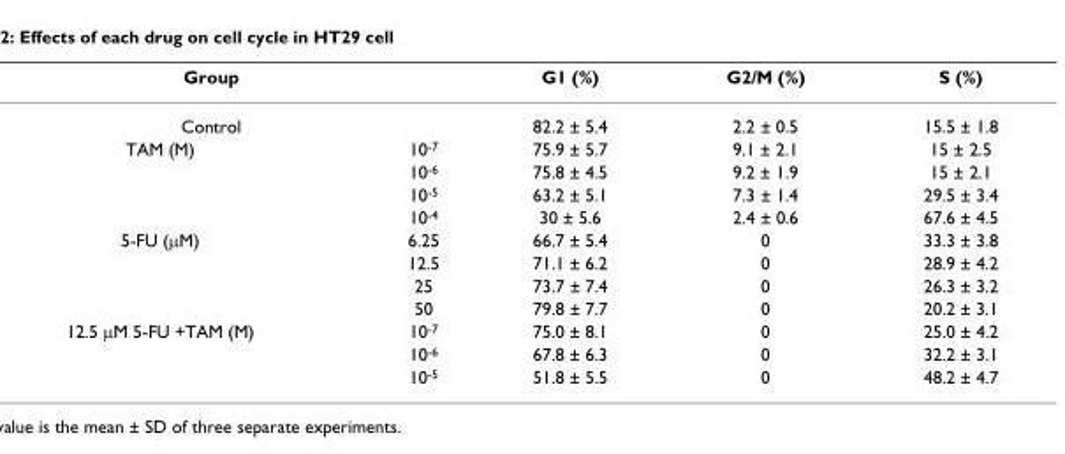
<table><thead><tr><td rowspan="2" colspan="2">Group Control</td><td rowspan="3">G1 (%) 82.2 ± 5.4 75.9 ± 5.7</td><td rowspan="3">G2/M (%) 2.2 ± 0.5 9.1 ± 2.1</td><td rowspan="3">S (%) 15.5 ± 1.8 15 ± 2.5</td></tr><tr></tr><tr><td>TAM (M)</td><td>10<sup>-7</sup></td></tr></thead><tbody><tr><td></td><td>10<sup>-6</sup></td><td>75.8 ± 4.5</td><td>9.2 ± 1.9</td><td>15 ± 2.1</td></tr><tr><td></td><td>10<sup>-5</sup></td><td>63.2 ± 5.1</td><td>7.3 ± 1.4</td><td>29.5 ± 3.4</td></tr><tr><td></td><td>10<sup>-4</sup></td><td>30 ± 5.6</td><td>2.4 ± 0.6</td><td>67.6 ± 4.5</td></tr><tr><td rowspan="4">5-FU (μM)</td><td>6.25</td><td>66.7 ± 5.4</td><td>0</td><td>33.3 ± 3.8</td></tr><tr><td>12.5</td><td>71.1 ± 6.2</td><td>0</td><td>28.9 ± 4.2</td></tr><tr><td>25</td><td>73.7 ± 7.4</td><td>0</td><td>26.3 ± 3.2</td></tr><tr><td>50</td><td>79.8 ± 7.7</td><td>0</td><td>20.2 ± 3.1</td></tr><tr><td rowspan="3">12.5 μM 5-FU +TAM (M)</td><td>10<sup>-7</sup></td><td>75.0 ± 8.1</td><td>0</td><td>25.0 ± 4.2</td></tr><tr><td>10<sup>-6</sup></td><td>67.8 ± 6.3</td><td>0</td><td>32.2 ± 3.1</td></tr><tr><td>10<sup>-5</sup></td><td>51.8 ± 5.5</td><td>0</td><td>48.2 ± 4.7</td></tr></tbody></table>